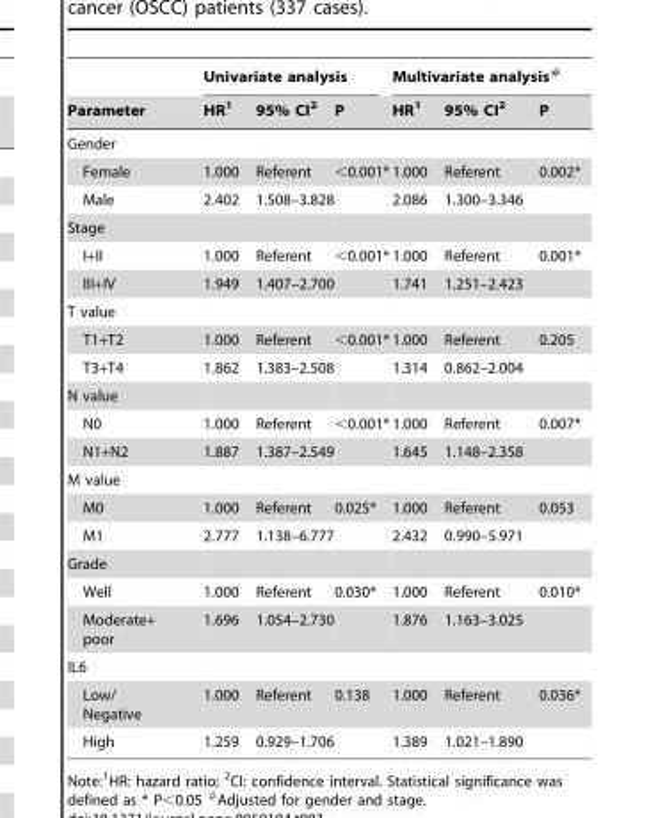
<table><thead><tr><td rowspan="2">Parameter</td><td colspan="3">Univariate analysis</td><td colspan="3">Multivariate analysis<sup>#</sup></td></tr><tr><td>HR<sup>1</sup></td><td>95% CI<sup>2</sup></td><td>P</td><td>HR<sup>1</sup></td><td>95% CI<sup>2</sup></td><td>P</td></tr></thead><tbody><tr><td colspan="7">Gender</td></tr><tr><td>Female</td><td>1.000</td><td>Referent</td><td>&lt;0.001*</td><td>1.000</td><td>Referent</td><td>0.002*</td></tr><tr><td>Male</td><td>2.402</td><td>1.508–3.828</td><td></td><td>2.086</td><td>1.300–3.346</td><td></td></tr><tr><td colspan="7">Stage</td></tr><tr><td>I+II</td><td>1.000</td><td>Referent</td><td>&lt;0.001*</td><td>1.000</td><td>Referent</td><td>0.001*</td></tr><tr><td>III+IV</td><td>1.949</td><td>1.407–2.700</td><td></td><td>1.741</td><td>1.251–2.423</td><td></td></tr><tr><td colspan="7">T value</td></tr><tr><td>T1+T2</td><td>1.000</td><td>Referent</td><td>&lt;0.001*</td><td>1.000</td><td>Referent</td><td>0.205</td></tr><tr><td>T3+T4</td><td>1.862</td><td>1.383–2.508</td><td></td><td>1.314</td><td>0.862–2.004</td><td></td></tr><tr><td colspan="7">N value</td></tr><tr><td>N0</td><td>1.000</td><td>Referent</td><td>&lt;0.001*</td><td>1.000</td><td>Referent</td><td>0.007*</td></tr><tr><td>N1+N2</td><td>1.887</td><td>1.387–2.549</td><td></td><td>1.645</td><td>1.148–2.358</td><td></td></tr><tr><td colspan="7">M value</td></tr><tr><td>M0</td><td>1.000</td><td>Referent</td><td>0.025*</td><td>1.000</td><td>Referent</td><td>0.053</td></tr><tr><td>M1</td><td>2.777</td><td>1.138–6.777</td><td></td><td>2.432</td><td>0.990–5.971</td><td></td></tr><tr><td colspan="7">Grade</td></tr><tr><td>Well</td><td>1.000</td><td>Referent</td><td>0.030*</td><td>1.000</td><td>Referent</td><td>0.010*</td></tr><tr><td>Moderate+ poor</td><td>1.696</td><td>1.054–2.730</td><td></td><td>1.876</td><td>1.163–3.025</td><td></td></tr><tr><td colspan="7">IL6</td></tr><tr><td>Low/ Negative</td><td>1.000</td><td>Referent</td><td>0.138</td><td>1.000</td><td>Referent</td><td>0.036*</td></tr><tr><td>High</td><td>1.259</td><td>0.929–1.706</td><td></td><td>1.389</td><td>1.021–1.890</td><td></td></tr></tbody></table>